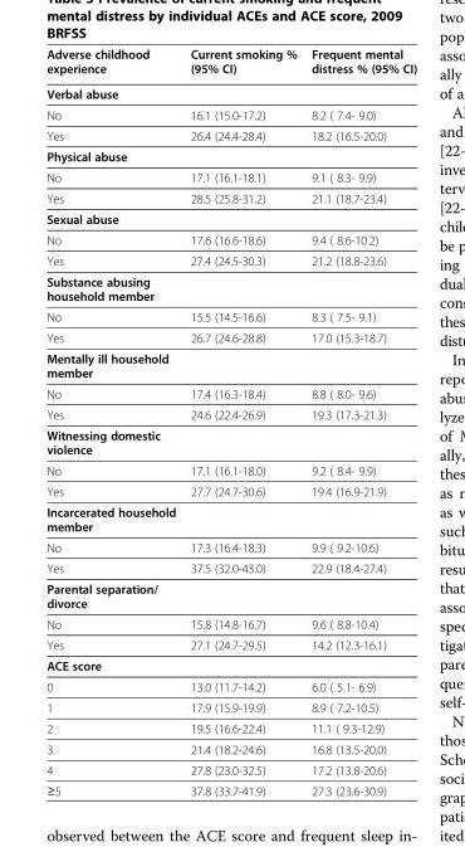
<table><thead><tr><td>Adverse childhood experience</td><td>Current smoking % (95% CI)</td><td>Frequent mental distress % (95% CI)</td></tr></thead><tbody><tr><td colspan="3">Verbal abuse</td></tr><tr><td>No</td><td>16.1 (15.0-17.2)</td><td>8.2 ( 7.4- 9.0)</td></tr><tr><td>Yes</td><td>26.4 (24.4-28.4)</td><td>18.2 (16.5-20.0)</td></tr><tr><td colspan="3">Physical abuse</td></tr><tr><td>No</td><td>17.1 (16.1-18.1)</td><td>9.1 ( 8.3- 9.9)</td></tr><tr><td>Yes</td><td>28.5 (25.8-31.2)</td><td>21.1 (18.7-23.4)</td></tr><tr><td colspan="3">Sexual abuse</td></tr><tr><td>No</td><td>17.6 (16.6-18.6)</td><td>9.4 ( 8.6-10.2)</td></tr><tr><td>Yes</td><td>27.4 (24.5-30.3)</td><td>21.2 (18.8-23.6)</td></tr><tr><td colspan="3">Substance abusing household member</td></tr><tr><td>No</td><td>15.5 (14.5-16.6)</td><td>8.3 ( 7.5- 9.1)</td></tr><tr><td>Yes</td><td>26.7 (24.6-28.8)</td><td>17.0 (15.3-18.7)</td></tr><tr><td colspan="3">Mentally ill household member</td></tr><tr><td>No</td><td>17.4 (16.3-18.4)</td><td>8.8 ( 8.0- 9.6)</td></tr><tr><td>Yes</td><td>24.6 (22.4-26.9)</td><td>19.3 (17.3-21.3)</td></tr><tr><td colspan="3">Witnessing domestic violence</td></tr><tr><td>No</td><td>17.1 (16.1-18.0)</td><td>9.2 ( 8.4- 9.9)</td></tr><tr><td>Yes</td><td>27.7 (24.7-30.6)</td><td>19.4 (16.9-21.9)</td></tr><tr><td colspan="3">Incarcerated household member</td></tr><tr><td>No</td><td>17.3 (16.4-18.3)</td><td>9.9 ( 9.2-10.6)</td></tr><tr><td>Yes</td><td>37.5 (32.0-43.0)</td><td>22.9 (18.4-27.4)</td></tr><tr><td colspan="3">Parental separation/ divorce</td></tr><tr><td>No</td><td>15.8 (14.8-16.7)</td><td>9.6 ( 8.8-10.4)</td></tr><tr><td>Yes</td><td>27.1 (24.7-29.5)</td><td>14.2 (12.3-16.1)</td></tr><tr><td colspan="3">ACE score</td></tr><tr><td>0</td><td>13.0 (11.7-14.2)</td><td>6.0 ( 5.1- 6.9)</td></tr><tr><td>1</td><td>17.9 (15.9-19.9)</td><td>8.9 ( 7.2-10.5)</td></tr><tr><td>2</td><td>19.5 (16.6-22.4)</td><td>11.1 ( 9.3-12.9)</td></tr><tr><td>3</td><td>21.4 (18.2-24.6)</td><td>16.8 (13.5-20.0)</td></tr><tr><td>4</td><td>27.8 (23.0-32.5)</td><td>17.2 (13.8-20.6)</td></tr><tr><td>≥5</td><td>37.8 (33.7-41.9)</td><td>27.3 (23.6-30.9)</td></tr></tbody></table>